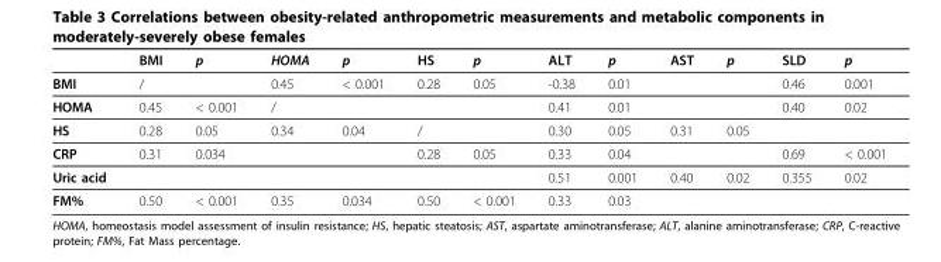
<table><thead><tr><td></td><td>BMI</td><td>p</td><td>HOMA</td><td>p</td><td>HS</td><td>p</td><td>ALT</td><td>p</td><td>AST</td><td>p</td><td>SLD</td><td>p</td></tr></thead><tbody><tr><td>BMI</td><td>/</td><td></td><td>0.45</td><td>&lt; 0.001</td><td>0.28</td><td>0.05</td><td>-0.38</td><td>0.01</td><td></td><td></td><td>0.46</td><td>0.001</td></tr><tr><td>HOMA</td><td>0.45</td><td>&lt; 0.001</td><td>/</td><td></td><td></td><td></td><td>0.41</td><td>0.01</td><td></td><td></td><td>0.40</td><td>0.02</td></tr><tr><td>HS</td><td>0.28</td><td>0.05</td><td>0.34</td><td>0.04</td><td>/</td><td></td><td>0.30</td><td>0.05</td><td>0.31</td><td>0.05</td><td></td><td></td></tr><tr><td>CRP</td><td>0.31</td><td>0.034</td><td></td><td></td><td>0.28</td><td>0.05</td><td>0.33</td><td>0.04</td><td></td><td></td><td>0.69</td><td>&lt; 0.001</td></tr><tr><td>Uric acid</td><td></td><td></td><td></td><td></td><td></td><td></td><td>0.51</td><td>0.001</td><td>0.40</td><td>0.02</td><td>0.355</td><td>0.02</td></tr><tr><td>FM%</td><td>0.50</td><td>&lt; 0.001</td><td>0.35</td><td>0.034</td><td>0.50</td><td>&lt; 0.001</td><td>0.33</td><td>0.03</td><td></td><td></td><td></td><td></td></tr></tbody></table>